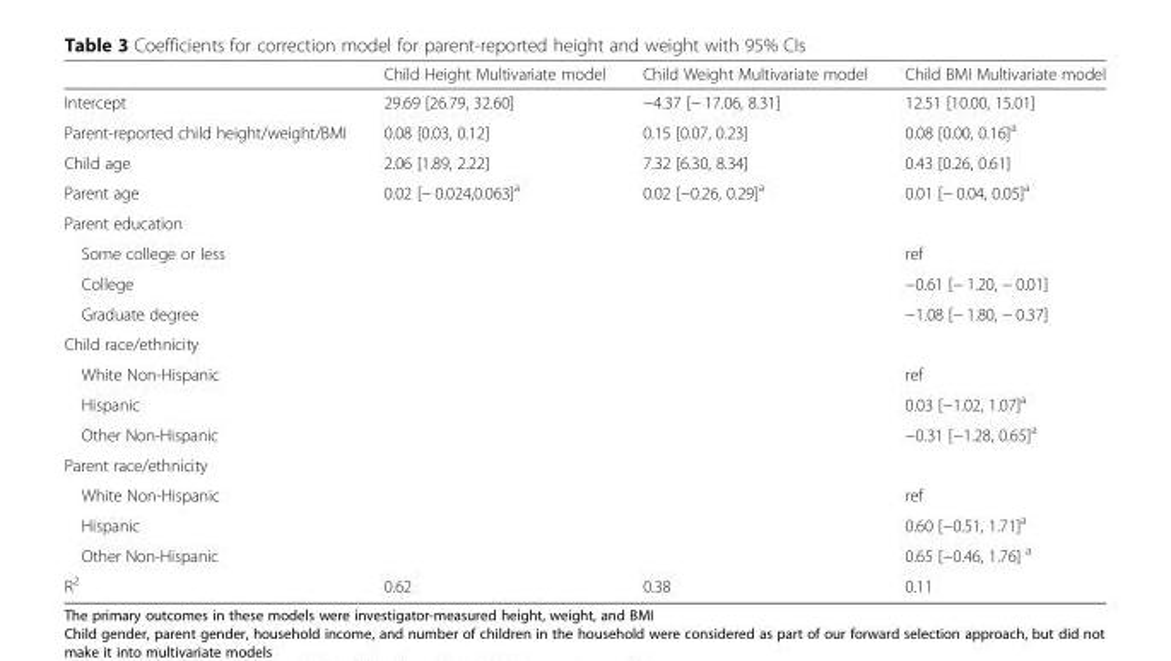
<table><thead><tr><td></td><td>Child Height Multivariate model</td><td>Child Weight Multivariate model</td><td>Child BMI Multivariate model</td></tr></thead><tbody><tr><td>Intercept</td><td>29.69 [26.79, 32.60]</td><td>−4.37 [− 17.06, 8.31]</td><td>12.51 [10.00, 15.01]</td></tr><tr><td>Parent-reported child height/weight/BMI</td><td>0.08 [0.03, 0.12]</td><td>0.15 [0.07, 0.23]</td><td>0.08 [0.00, 0.16]<sup>a</sup></td></tr><tr><td>Child age</td><td>2.06 [1.89, 2.22]</td><td>7.32 [6.30, 8.34]</td><td>0.43 [0.26, 0.61]</td></tr><tr><td>Parent age</td><td>0.02 [− 0.024,0.063]<sup>a</sup></td><td>0.02 [−0.26, 0.29]<sup>a</sup></td><td>0.01 [− 0.04, 0.05]<sup>a</sup></td></tr><tr><td colspan="4">Parent education</td></tr><tr><td>Some college or less</td><td></td><td></td><td>ref</td></tr><tr><td>College</td><td></td><td></td><td>−0.61 [− 1.20, − 0.01]</td></tr><tr><td>Graduate degree</td><td></td><td></td><td>−1.08 [− 1.80, − 0.37]</td></tr><tr><td colspan="4">Child race/ethnicity</td></tr><tr><td>White Non-Hispanic</td><td></td><td></td><td>ref</td></tr><tr><td>Hispanic</td><td></td><td></td><td>0.03 [−1.02, 1.07]<sup>a</sup></td></tr><tr><td>Other Non-Hispanic</td><td></td><td></td><td>−0.31 [−1.28, 0.65]<sup>a</sup></td></tr><tr><td colspan="4">Parent race/ethnicity</td></tr><tr><td>White Non-Hispanic</td><td></td><td></td><td>ref</td></tr><tr><td>Hispanic</td><td></td><td></td><td>0.60 [−0.51, 1.71]<sup>a</sup></td></tr><tr><td>Other Non-Hispanic</td><td></td><td></td><td>0.65 [−0.46, 1.76] <sup>a</sup></td></tr><tr><td>R<sup>2</sup></td><td>0.62</td><td>0.38</td><td>0.11</td></tr></tbody></table>